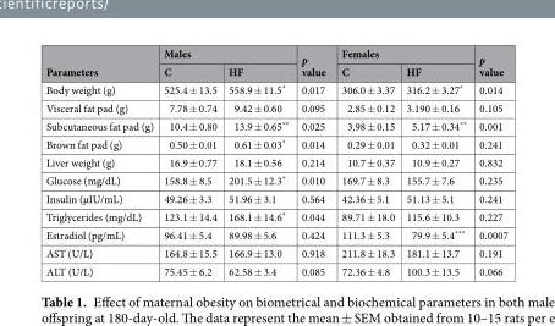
<table><thead><tr><td rowspan="2">Parameters</td><td colspan="2">Males</td><td rowspan="2">p value</td><td colspan="2">Females</td><td rowspan="2">p value</td></tr><tr><td>C</td><td>HF</td><td>C</td><td>HF</td></tr></thead><tbody><tr><td>Body weight (g)</td><td>525.4 ± 13.5</td><td>558.9 ± 11.5*</td><td>0.017</td><td>306.0 ± 3.37</td><td>316.2 ± 3.27*</td><td>0.014</td></tr><tr><td>Visceral fat pad (g)</td><td>7.78 ± 0.74</td><td>9.42 ± 0.60</td><td>0.095</td><td>2.85 ± 0.12</td><td>3.190 ± 0.16</td><td>0.105</td></tr><tr><td>Subcutaneous fat pad (g)</td><td>10.4 ± 0.80</td><td>13.9 ± 0.65**</td><td>0.025</td><td>3.98 ± 0.15</td><td>5.17 ± 0.34**</td><td>0.001</td></tr><tr><td>Brown fat pad (g)</td><td>0.50 ± 0.01</td><td>0.61 ± 0.03*</td><td>0.014</td><td>0.29 ± 0.01</td><td>0.32 ± 0.01</td><td>0.241</td></tr><tr><td>Liver weight (g)</td><td>16.9 ± 0.77</td><td>18.1 ± 0.56</td><td>0.214</td><td>10.7 ± 0.37</td><td>10.9 ± 0.27</td><td>0.832</td></tr><tr><td>Glucose (mg/dL)</td><td>158.8 ± 8.5</td><td>201.5 ± 12.3*</td><td>0.010</td><td>169.7 ± 8.3</td><td>155.7 ± 7.6</td><td>0.235</td></tr><tr><td>Insulin (µIU/mL)</td><td>49.26 ± 3.3</td><td>51.96 ± 3.1</td><td>0.564</td><td>42.36 ± 5.1</td><td>51.13 ± 5.1</td><td>0.241</td></tr><tr><td>Triglycerides (mg/dL)</td><td>123.1 ± 14.4</td><td>168.1 ± 14.6*</td><td>0.044</td><td>89.71 ± 18.0</td><td>115.6 ± 10.3</td><td>0.227</td></tr><tr><td>Estradiol (pg/mL)</td><td>96.41 ± 5.4</td><td>89.98 ± 5.6</td><td>0.424</td><td>111.3 ± 5.3</td><td>79.9 ± 5.4***</td><td>0.0007</td></tr><tr><td>AST (U/L)</td><td>164.8 ± 15.5</td><td>166.9 ± 13.0</td><td>0.918</td><td>211.8 ± 18.3</td><td>181.1 ± 13.7</td><td>0.191</td></tr><tr><td>ALT (U/L)</td><td>75.45 ± 6.2</td><td>62.58 ± 3.4</td><td>0.085</td><td>72.36 ± 4.8</td><td>100.3 ± 13.5</td><td>0.066</td></tr></tbody></table>